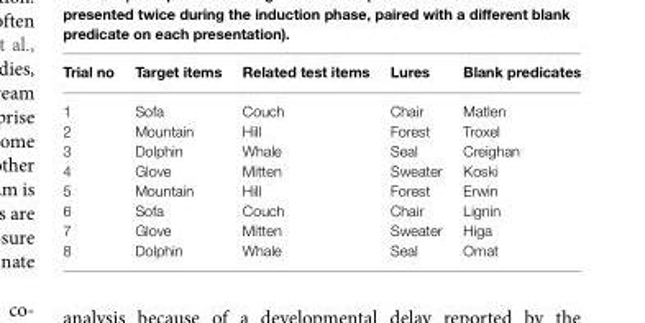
<table><thead><tr><td>Trial no</td><td>Target items</td><td>Related test items</td><td>Lures</td><td>Blank predicates</td></tr></thead><tbody><tr><td>1</td><td>Sofa</td><td>Couch</td><td>Chair</td><td>Matlen</td></tr><tr><td>2</td><td>Mountain</td><td>Hill</td><td>Forest</td><td>Troxel</td></tr><tr><td>3</td><td>Dolphin</td><td>Whale</td><td>Seal</td><td>Creighan</td></tr><tr><td>4</td><td>Glove</td><td>Mitten</td><td>Sweater</td><td>Koski</td></tr><tr><td>5</td><td>Mountain</td><td>Hill</td><td>Forest</td><td>Erwin</td></tr><tr><td>6</td><td>Sofa</td><td>Couch</td><td>Chair</td><td>Lignin</td></tr><tr><td>7</td><td>Glove</td><td>Mitten</td><td>Sweater</td><td>Higa</td></tr><tr><td>8</td><td>Dolphin</td><td>Whale</td><td>Seal</td><td>Omat</td></tr></tbody></table>